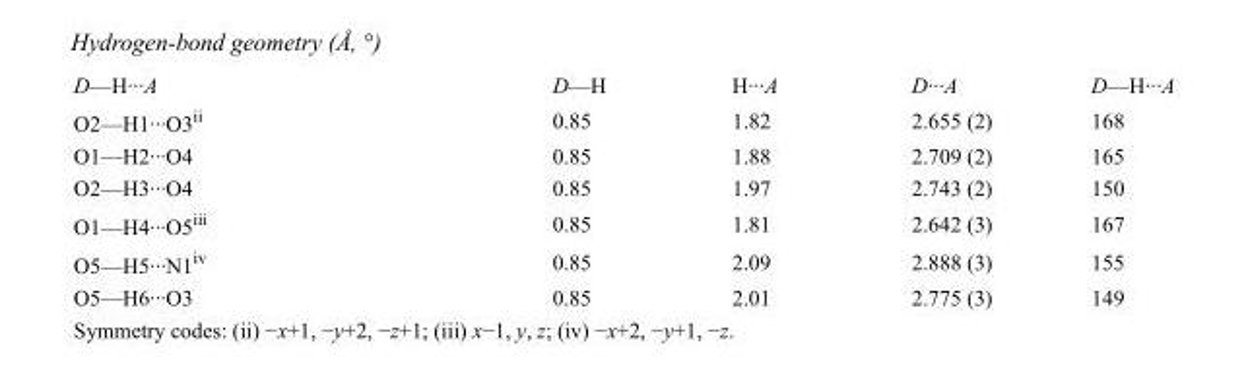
<table><tbody><tr><td>D—H···A</td><td>D—H</td><td>H···A</td><td>D···A</td><td>D—H···A</td></tr><tr><td>O2—H1···O3<sup>ii</sup></td><td>0.85</td><td>1.82</td><td>2.655 (2)</td><td>168</td></tr><tr><td>O1—H2···O4</td><td>0.85</td><td>1.88</td><td>2.709 (2)</td><td>165</td></tr><tr><td>O2—H3···O4</td><td>0.85</td><td>1.97</td><td>2.743 (2)</td><td>150</td></tr><tr><td>O1—H4···O5<sup>iii</sup></td><td>0.85</td><td>1.81</td><td>2.642 (3)</td><td>167</td></tr><tr><td>O5—H5···N1<sup>iv</sup></td><td>0.85</td><td>2.09</td><td>2.888 (3)</td><td>155</td></tr><tr><td>O5—H6···O3</td><td>0.85</td><td>2.01</td><td>2.775 (3)</td><td>149</td></tr></tbody></table>